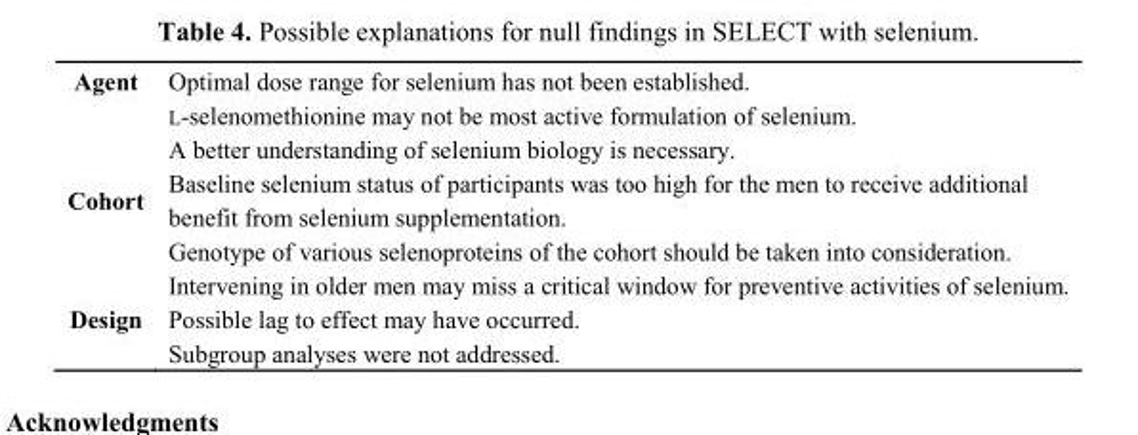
<table><tbody><tr><td rowspan="3">Agent</td><td>Optimal dose range for selenium has not been established.</td></tr><tr><td>L-selenomethionine may not be most active formulation of selenium.</td></tr><tr><td>A better understanding of selenium biology is necessary.</td></tr><tr><td rowspan="3">Cohort</td><td>Baseline selenium status of participants was too high for the men to receive additional benefit from selenium supplementation.</td></tr><tr><td>Genotype of various selenoproteins of the cohort should be taken into consideration.</td></tr><tr><td>Intervening in older men may miss a critical window for preventive activities of selenium.</td></tr><tr><td rowspan="2">Design</td><td>Possible lag to effect may have occurred.</td></tr><tr><td>Subgroup analyses were not addressed.</td></tr></tbody></table>